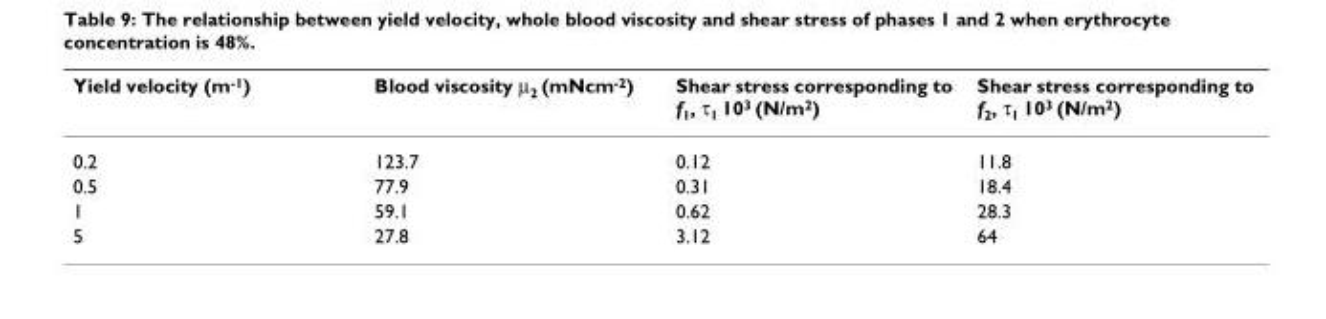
<table><thead><tr><td>Yield velocity (m<sup>-1</sup>)</td><td>Blood viscosity μ<sub>2</sub> (mNcm<sup>-2</sup>)</td><td>Shear stress corresponding to f<sub>1</sub>, τ<sub>1</sub> 10<sup>3</sup> (N/m<sup>2</sup>)</td><td>Shear stress corresponding to f<sub>2</sub>, τ<sub>1</sub> 10<sup>3</sup> (N/m<sup>2</sup>)</td></tr></thead><tbody><tr><td>0.2</td><td>123.7</td><td>0.12</td><td>11.8</td></tr><tr><td>0.5</td><td>77.9</td><td>0.31</td><td>18.4</td></tr><tr><td>1</td><td>59.1</td><td>0.62</td><td>28.3</td></tr><tr><td>5</td><td>27.8</td><td>3.12</td><td>64</td></tr></tbody></table>